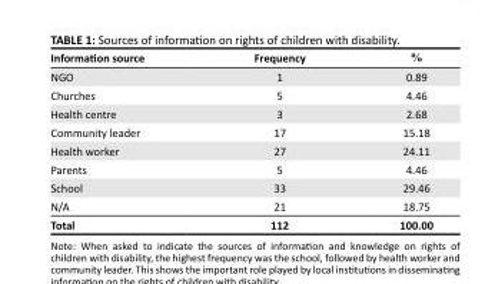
<table><thead><tr><td>Information source</td><td>Frequency</td><td>%</td></tr></thead><tbody><tr><td>NGO</td><td>1</td><td>0.89</td></tr><tr><td>Churches</td><td>5</td><td>4.46</td></tr><tr><td>Health centre</td><td>3</td><td>2.68</td></tr><tr><td>Community leader</td><td>17</td><td>15.18</td></tr><tr><td>Health worker</td><td>27</td><td>24.11</td></tr><tr><td>Parents</td><td>5</td><td>4.46</td></tr><tr><td>School</td><td>33</td><td>29.46</td></tr><tr><td>N/A</td><td>21</td><td>18.75</td></tr><tr><td>Total</td><td>112</td><td>100.00</td></tr></tbody></table>